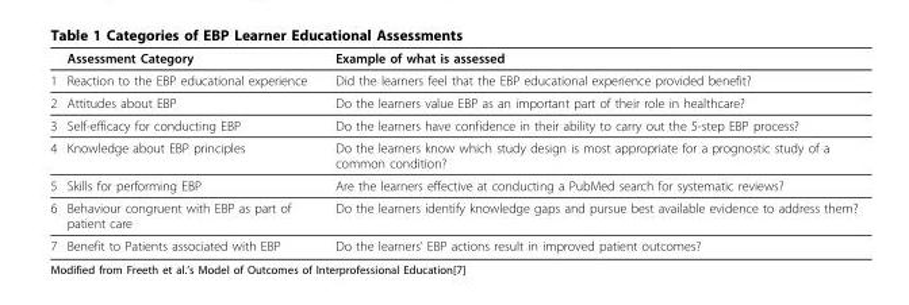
<table><thead><tr><td></td><td>Assessment Category</td><td>Example of what is assessed</td></tr></thead><tbody><tr><td>1</td><td>Reaction to the EBP educational experience</td><td>Did the learners feel that the EBP educational experience provided benefit?</td></tr><tr><td>2</td><td>Attitudes about EBP</td><td>Do the learners value EBP as an important part of their role in healthcare?</td></tr><tr><td>3</td><td>Self-efficacy for conducting EBP</td><td>Do the learners have confidence in their ability to carry out the 5-step EBP process?</td></tr><tr><td>4</td><td>Knowledge about EBP principles</td><td>Do the learners know which study design is most appropriate for a prognostic study of a common condition?</td></tr><tr><td>5</td><td>Skills for performing EBP</td><td>Are the learners effective at conducting a PubMed search for systematic reviews?</td></tr><tr><td>6</td><td>Behaviour congruent with EBP as part of patient care</td><td>Do the learners identify knowledge gaps and pursue best available evidence to address them?</td></tr><tr><td>7</td><td>Benefit to Patients associated with EBP</td><td>Do the learners’ EBP actions result in improved patient outcomes?</td></tr></tbody></table>